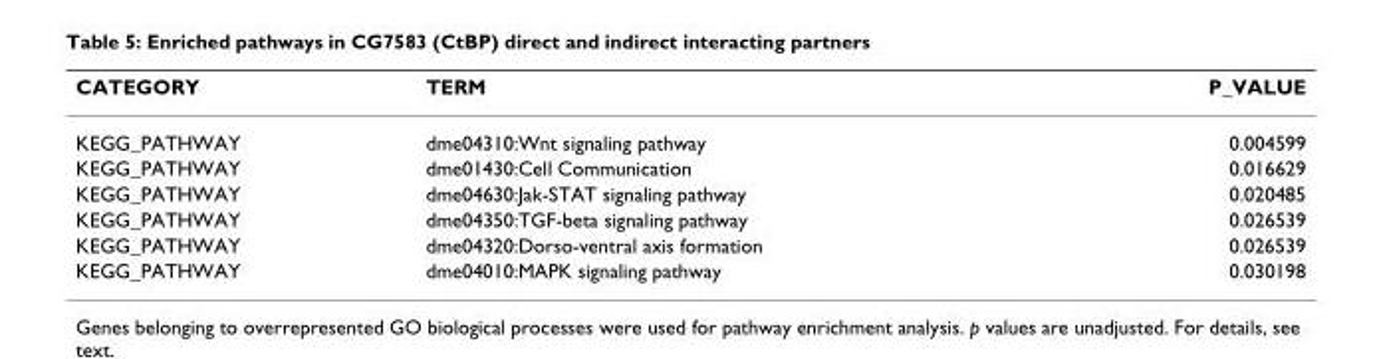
<table><thead><tr><td>CATEGORY</td><td>TERM</td><td>P_VALUE</td></tr></thead><tbody><tr><td>KEGG_PATHWAY</td><td>dme04310:Wnt signaling pathway</td><td>0.004599</td></tr><tr><td>KEGG_PATHWAY</td><td>dme01430:Cell Communication</td><td>0.016629</td></tr><tr><td>KEGG_PATHWAY</td><td>dme04630:Jak-STAT signaling pathway</td><td>0.020485</td></tr><tr><td>KEGG_PATHWAY</td><td>dme04350:TGF-beta signaling pathway</td><td>0.026539</td></tr><tr><td>KEGG_PATHWAY</td><td>dme04320:Dorso-ventral axis formation</td><td>0.026539</td></tr><tr><td>KEGG_PATHWAY</td><td>dme04010:MAPK signaling pathway</td><td>0.030198</td></tr></tbody></table>